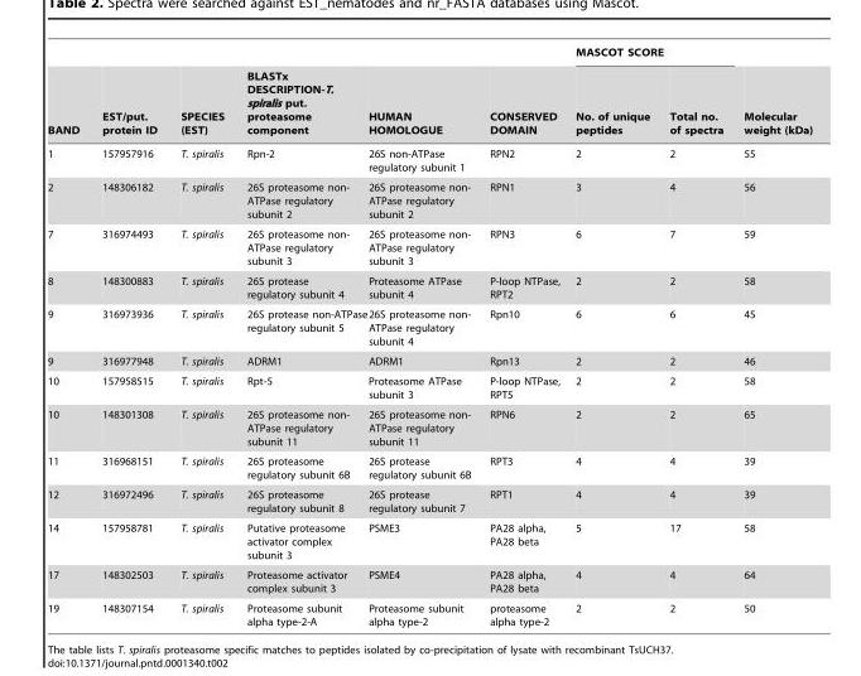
<table><thead><tr><td rowspan="2">BAND</td><td rowspan="2">EST/put. protein ID</td><td rowspan="2">SPECIES (EST)</td><td rowspan="2">BLASTx DESCRIPTION-T. spiralis put. proteasome component</td><td rowspan="2">HUMAN HOMOLOGUE</td><td rowspan="2">CONSERVED DOMAIN</td><td colspan="2">MASCOT SCORE</td><td rowspan="2">Molecular weight (kDa)</td></tr><tr><td>No. of unique peptides</td><td>Total no. of spectra</td></tr></thead><tbody><tr><td>1</td><td>157957916</td><td>T. spiralis</td><td>Rpn-2</td><td>26S non-ATPase regulatory subunit 1</td><td>RPN2</td><td>2</td><td>2</td><td>55</td></tr><tr><td>2</td><td>148306182</td><td>T. spiralis</td><td>26S proteasome non- ATPase regulatory subunit 2</td><td>26S proteasome non- ATPase regulatory subunit 2</td><td>RPN1</td><td>3</td><td>4</td><td>56</td></tr><tr><td>7</td><td>316974493</td><td>T. spiralis</td><td>26S proteasome non- ATPase regulatory subunit 3</td><td>26S proteasome non- ATPase regulatory subunit 3</td><td>RPN3</td><td>6</td><td>7</td><td>59</td></tr><tr><td>8</td><td>148300883</td><td>T. spiralis</td><td>26S protease regulatory subunit 4</td><td>Proteasome ATPase subunit 4</td><td>P-loop NTPase, RPT2</td><td>2</td><td>2</td><td>58</td></tr><tr><td>9</td><td>316973936</td><td>T. spiralis</td><td>26S protease non-ATPase regulatory subunit 5</td><td>26S proteasome non- ATPase regulatory subunit 4</td><td>Rpn10</td><td>6</td><td>6</td><td>45</td></tr><tr><td>9</td><td>316977948</td><td>T. spiralis</td><td>ADRM1</td><td>ADRM1</td><td>Rpn13</td><td>2</td><td>2</td><td>46</td></tr><tr><td>10</td><td>157958515</td><td>T. spiralis</td><td>Rpt-5</td><td>Proteasome ATPase subunit 3</td><td>P-loop NTPase, RPT5</td><td>2</td><td>2</td><td>58</td></tr><tr><td>10</td><td>148301308</td><td>T. spiralis</td><td>26S proteasome non- ATPase regulatory subunit 11</td><td>26S proteasome non- ATPase regulatory subunit 11</td><td>RPN6</td><td>2</td><td>2</td><td>65</td></tr><tr><td>11</td><td>316968151</td><td>T. spiralis</td><td>26S proteasome regulatory subunit 6B</td><td>26S protease regulatory subunit 6B</td><td>RPT3</td><td>4</td><td>4</td><td>39</td></tr><tr><td>12</td><td>316972496</td><td>T. spiralis</td><td>26S proteasome regulatory subunit 8</td><td>26S protease regulatory subunit 7</td><td>RPT1</td><td>4</td><td>4</td><td>39</td></tr><tr><td>14</td><td>157958781</td><td>T. spiralis</td><td>Putative proteasome activator complex subunit 3</td><td>PSME3</td><td>PA28 alpha, PA28 beta</td><td>5</td><td>17</td><td>58</td></tr><tr><td>17</td><td>148302503</td><td>T. spiralis</td><td>Proteasome activator complex subunit 3</td><td>PSME4</td><td>PA28 alpha, PA28 beta</td><td>4</td><td>4</td><td>64</td></tr><tr><td>19</td><td>148307154</td><td>T. spiralis</td><td>Proteasome subunit alpha type-2-A</td><td>Proteasome subunit alpha type-2</td><td>proteasome alpha type-2</td><td>2</td><td>2</td><td>50</td></tr></tbody></table>